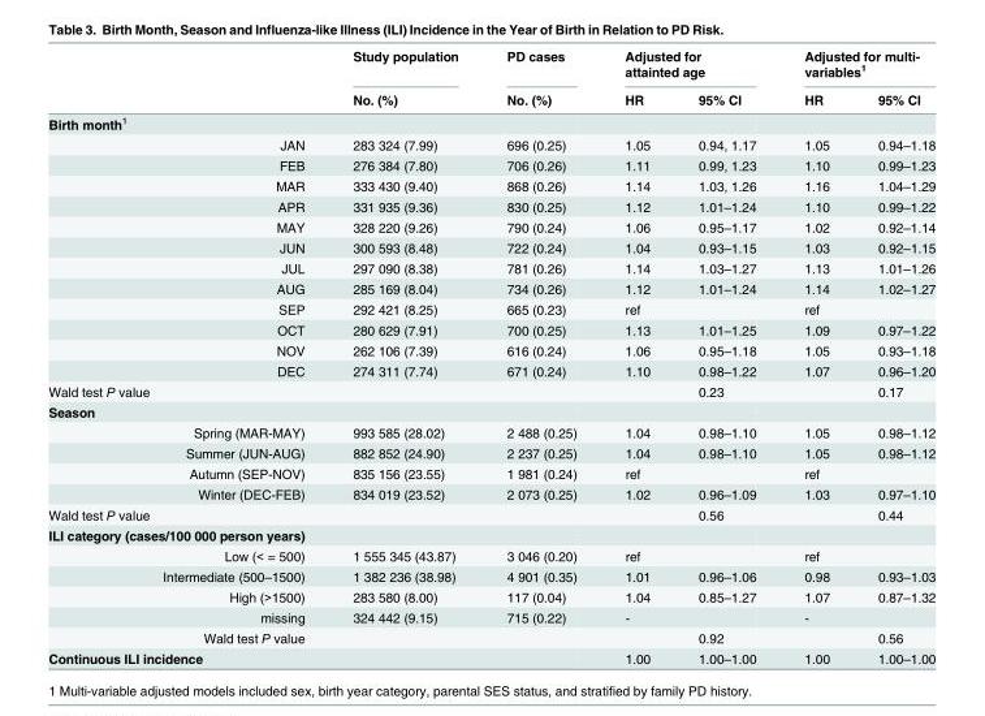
<table><thead><tr><td rowspan="2"></td><td rowspan="2">Study population No. (%)</td><td rowspan="2">PD cases No. (%)</td><td colspan="2">Adjusted for attainted age</td><td colspan="2">Adjusted for multi- variables<sup>1</sup></td></tr><tr><td>HR</td><td>95% CI</td><td>HR</td><td>95% CI</td></tr></thead><tbody><tr><td colspan="7">Birth month<sup>1</sup></td></tr><tr><td>JAN</td><td>283 324 (7.99)</td><td>696 (0.25)</td><td>1.05</td><td>0.94, 1.17</td><td>1.05</td><td>0.94–1.18</td></tr><tr><td>FEB</td><td>276 384 (7.80)</td><td>706 (0.26)</td><td>1.11</td><td>0.99, 1.23</td><td>1.10</td><td>0.99–1.23</td></tr><tr><td>MAR</td><td>333 430 (9.40)</td><td>868 (0.26)</td><td>1.14</td><td>1.03, 1.26</td><td>1.16</td><td>1.04–1.29</td></tr><tr><td>APR</td><td>331 935 (9.36)</td><td>830 (0.25)</td><td>1.12</td><td>1.01–1.24</td><td>1.10</td><td>0.99–1.22</td></tr><tr><td>MAY</td><td>328 220 (9.26)</td><td>790 (0.24)</td><td>1.06</td><td>0.95–1.17</td><td>1.02</td><td>0.92–1.14</td></tr><tr><td>JUN</td><td>300 593 (8.48)</td><td>722 (0.24)</td><td>1.04</td><td>0.93–1.15</td><td>1.03</td><td>0.92–1.15</td></tr><tr><td>JUL</td><td>297 090 (8.38)</td><td>781 (0.26)</td><td>1.14</td><td>1.03–1.27</td><td>1.13</td><td>1.01–1.26</td></tr><tr><td>AUG</td><td>285 169 (8.04)</td><td>734 (0.26)</td><td>1.12</td><td>1.01–1.24</td><td>1.14</td><td>1.02–1.27</td></tr><tr><td>SEP</td><td>292 421 (8.25)</td><td>665 (0.23)</td><td>ref</td><td></td><td>ref</td><td></td></tr><tr><td>OCT</td><td>280 629 (7.91)</td><td>700 (0.25)</td><td>1.13</td><td>1.01–1.25</td><td>1.09</td><td>0.97–1.22</td></tr><tr><td>NOV</td><td>262 106 (7.39)</td><td>616 (0.24)</td><td>1.06</td><td>0.95–1.18</td><td>1.05</td><td>0.93–1.18</td></tr><tr><td>DEC</td><td>274 311 (7.74)</td><td>671 (0.24)</td><td>1.10</td><td>0.98–1.22</td><td>1.07</td><td>0.96–1.20</td></tr><tr><td>Wald test P value</td><td></td><td></td><td></td><td>0.23</td><td></td><td>0.17</td></tr><tr><td colspan="7">Season</td></tr><tr><td>Spring (MAR-MAY)</td><td>993 585 (28.02)</td><td>2 488 (0.25)</td><td>1.04</td><td>0.98–1.10</td><td>1.05</td><td>0.98–1.12</td></tr><tr><td>Summer (JUN-AUG)</td><td>882 852 (24.90)</td><td>2 237 (0.25)</td><td>1.04</td><td>0.98–1.10</td><td>1.05</td><td>0.98–1.12</td></tr><tr><td>Autumn (SEP-NOV)</td><td>835 156 (23.55)</td><td>1 981 (0.24)</td><td>ref</td><td></td><td>ref</td><td></td></tr><tr><td>Winter (DEC-FEB)</td><td>834 019 (23.52)</td><td>2 073 (0.25)</td><td>1.02</td><td>0.96–1.09</td><td>1.03</td><td>0.97–1.10</td></tr><tr><td>Wald test P value</td><td></td><td></td><td></td><td>0.56</td><td></td><td>0.44</td></tr><tr><td colspan="7">ILI category (cases/100 000 person years)</td></tr><tr><td>Low (&lt; = 500)</td><td>1 555 345 (43.87)</td><td>3 046 (0.20)</td><td>ref</td><td></td><td>ref</td><td></td></tr><tr><td>Intermediate (500–1500)</td><td>1 382 236 (38.98)</td><td>4 901 (0.35)</td><td>1.01</td><td>0.96–1.06</td><td>0.98</td><td>0.93–1.03</td></tr><tr><td>High (&gt;1500)</td><td>283 580 (8.00)</td><td>117 (0.04)</td><td>1.04</td><td>0.85–1.27</td><td>1.07</td><td>0.87–1.32</td></tr><tr><td>missing</td><td>324 442 (9.15)</td><td>715 (0.22)</td><td>-</td><td></td><td>-</td><td></td></tr><tr><td>Wald test P value</td><td></td><td></td><td></td><td>0.92</td><td></td><td>0.56</td></tr><tr><td>Continuous ILI incidence</td><td></td><td></td><td>1.00</td><td>1.00–1.00</td><td>1.00</td><td>1.00–1.00</td></tr></tbody></table>